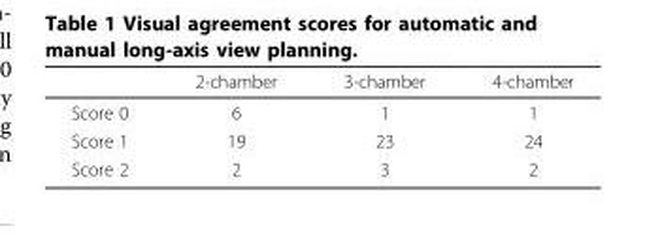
<table><thead><tr><td></td><td>2-chamber</td><td>3-chamber</td><td>4-chamber</td></tr></thead><tbody><tr><td>Score 0</td><td>6</td><td>1</td><td>1</td></tr><tr><td>Score 1</td><td>19</td><td>23</td><td>24</td></tr><tr><td>Score 2</td><td>2</td><td>3</td><td>2</td></tr></tbody></table>